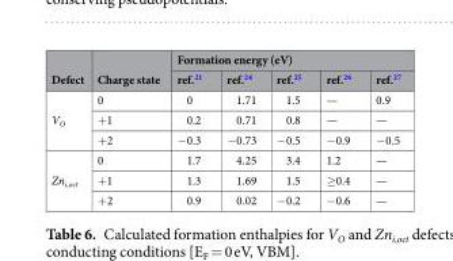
<table><thead><tr><td rowspan="2">Defect</td><td rowspan="2">Charge state</td><td colspan="5">Formation energy (eV)</td></tr><tr><td>ref.<sup>21</sup></td><td>ref.<sup>24</sup></td><td>ref.<sup>25</sup></td><td>ref.<sup>26</sup></td><td>ref.<sup>27</sup></td></tr></thead><tbody><tr><td rowspan="3">V<sub>O</sub></td><td>0</td><td>0</td><td>1.71</td><td>1.5</td><td>—</td><td>0.9</td></tr><tr><td>+1</td><td>0.2</td><td>0.71</td><td>0.8</td><td>—</td><td>—</td></tr><tr><td>+2</td><td>−0.3</td><td>−0.73</td><td>−0.5</td><td>−0.9</td><td>−0.5</td></tr><tr><td rowspan="3">Zn<sub>i,oct</sub></td><td>0</td><td>1.7</td><td>4.25</td><td>3.4</td><td>1.2</td><td>—</td></tr><tr><td>+1</td><td>1.3</td><td>1.69</td><td>1.5</td><td>≥0.4</td><td>—</td></tr><tr><td>+2</td><td>0.9</td><td>0.02</td><td>−0.2</td><td>−0.6</td><td>—</td></tr></tbody></table>